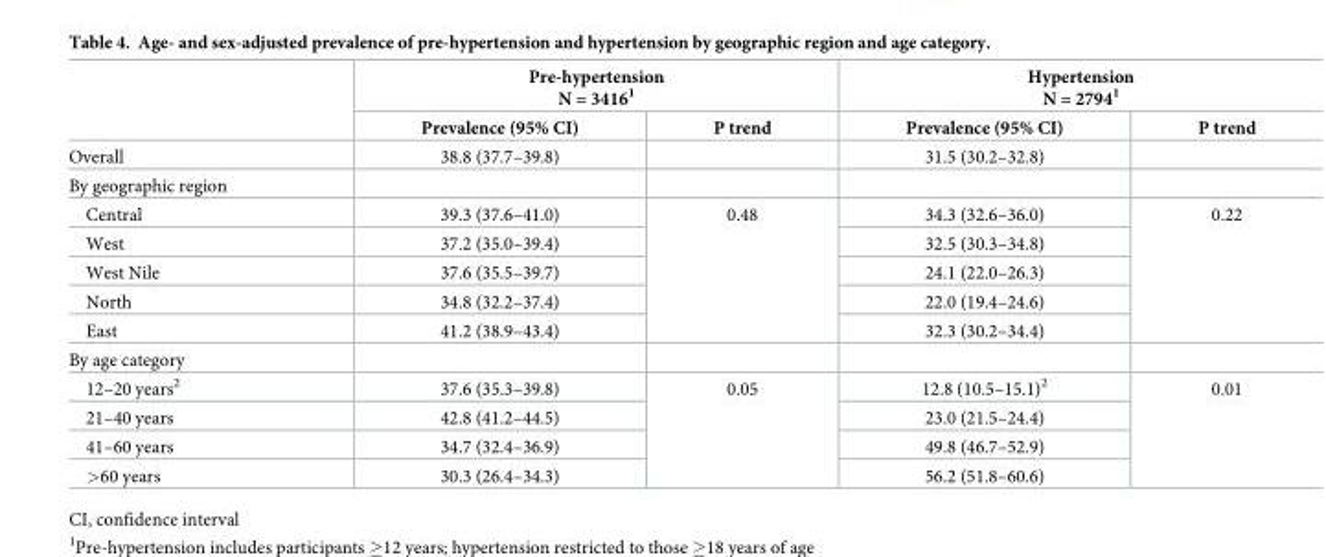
<table><thead><tr><td rowspan="2"></td><td colspan="2">Pre-hypertension N = 3416<sup>1</sup></td><td colspan="2">Hypertension N = 2794<sup>1</sup></td></tr><tr><td>Prevalence (95% CI)</td><td>P trend</td><td>Prevalence (95% CI)</td><td>P trend</td></tr></thead><tbody><tr><td>Overall</td><td>38.8 (37.7–39.8)</td><td></td><td>31.5 (30.2–32.8)</td><td></td></tr><tr><td colspan="5">By geographic region</td></tr><tr><td>Central</td><td>39.3 (37.6–41.0)</td><td rowspan="5">0.48</td><td>34.3 (32.6–36.0)</td><td rowspan="5">0.22</td></tr><tr><td>West</td><td>37.2 (35.0–39.4)</td><td>32.5 (30.3–34.8)</td></tr><tr><td>West Nile</td><td>37.6 (35.5–39.7)</td><td>24.1 (22.0–26.3)</td></tr><tr><td>North</td><td>34.8 (32.2–37.4)</td><td>22.0 (19.4–24.6)</td></tr><tr><td>East</td><td>41.2 (38.9–43.4)</td><td>32.3 (30.2–34.4)</td></tr><tr><td colspan="5">By age category</td></tr><tr><td>12–20 years<sup>2</sup></td><td>37.6 (35.3–39.8)</td><td rowspan="4">0.05</td><td>12.8 (10.5–15.1)<sup>2</sup></td><td rowspan="4">0.01</td></tr><tr><td>21–40 years</td><td>42.8 (41.2–44.5)</td><td>23.0 (21.5–24.4)</td></tr><tr><td>41–60 years</td><td>34.7 (32.4–36.9)</td><td>49.8 (46.7–52.9)</td></tr><tr><td>&gt;60 years</td><td>30.3 (26.4–34.3)</td><td>56.2 (51.8–60.6)</td></tr></tbody></table>